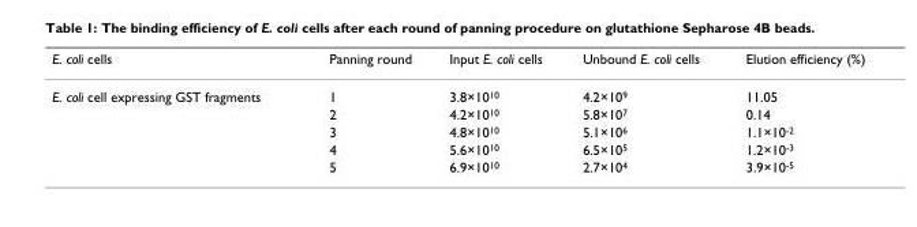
<table><thead><tr><td>E. coli cells</td><td>Panning round</td><td>Input E. coli cells</td><td>Unbound E. coli cells</td><td>Elution efficiency (%)</td></tr></thead><tbody><tr><td rowspan="5">E. coli cell expressing GST fragments</td><td>1</td><td>3.8×10<sup>10</sup></td><td>4.2×10<sup>9</sup></td><td>11.05</td></tr><tr><td>2</td><td>4.2×10<sup>10</sup></td><td>5.8×10<sup>7</sup></td><td>0.14</td></tr><tr><td>3</td><td>4.8×10<sup>10</sup></td><td>5.1×10<sup>6</sup></td><td>1.1×10<sup>-2</sup></td></tr><tr><td>4</td><td>5.6×10<sup>10</sup></td><td>6.5×10<sup>5</sup></td><td>1.2×10<sup>-3</sup></td></tr><tr><td>5</td><td>6.9×10<sup>10</sup></td><td>2.7×10<sup>4</sup></td><td>3.9×10<sup>-5</sup></td></tr></tbody></table>